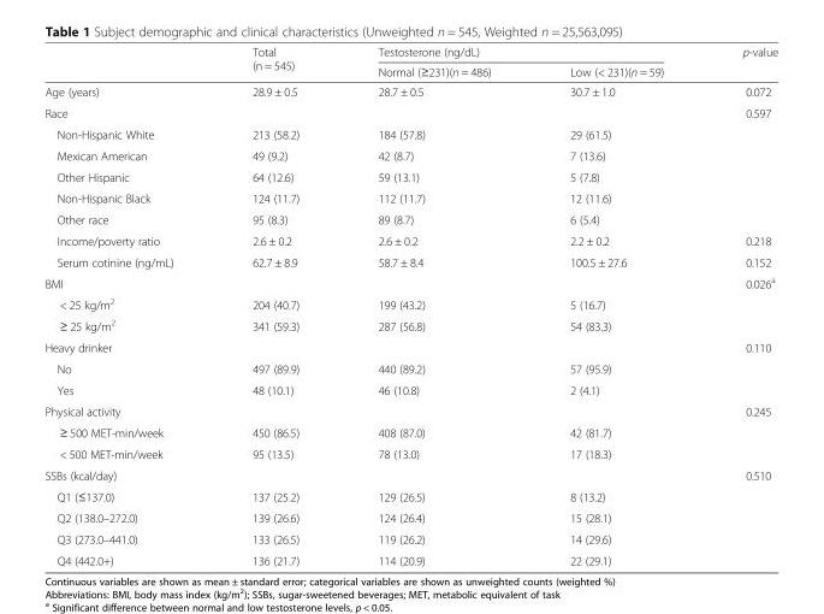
<table><thead><tr><td rowspan="2"></td><td rowspan="2">Total (n = 545)</td><td colspan="2">Testosterone (ng/dL)</td><td rowspan="2">p-value</td></tr><tr><td>Normal (≥231)(n = 486)</td><td>Low (&lt; 231)(n = 59)</td></tr></thead><tbody><tr><td>Age (years)</td><td>28.9 ± 0.5</td><td>28.7 ± 0.5</td><td>30.7 ± 1.0</td><td>0.072</td></tr><tr><td colspan="4">Race</td><td>0.597</td></tr><tr><td>Non-Hispanic White</td><td>213 (58.2)</td><td>184 (57.8)</td><td>29 (61.5)</td><td rowspan="5"></td></tr><tr><td>Mexican American</td><td>49 (9.2)</td><td>42 (8.7)</td><td>7 (13.6)</td></tr><tr><td>Other Hispanic</td><td>64 (12.6)</td><td>59 (13.1)</td><td>5 (7.8)</td></tr><tr><td>Non-Hispanic Black</td><td>124 (11.7)</td><td>112 (11.7)</td><td>12 (11.6)</td></tr><tr><td>Other race</td><td>95 (8.3)</td><td>89 (8.7)</td><td>6 (5.4)</td></tr><tr><td>Income/poverty ratio</td><td>2.6 ± 0.2</td><td>2.6 ± 0.2</td><td>2.2 ± 0.2</td><td>0.218</td></tr><tr><td>Serum cotinine (ng/mL)</td><td>62.7 ± 8.9</td><td>58.7 ± 8.4</td><td>100.5 ± 27.6</td><td>0.152</td></tr><tr><td colspan="4">BMI</td><td>0.026<sup>a</sup></td></tr><tr><td>&lt; 25 kg/m<sup>2</sup></td><td>204 (40.7)</td><td>199 (43.2)</td><td>5 (16.7)</td><td rowspan="2"></td></tr><tr><td>≥ 25 kg/m<sup>2</sup></td><td>341 (59.3)</td><td>287 (56.8)</td><td>54 (83.3)</td></tr><tr><td colspan="4">Heavy drinker</td><td>0.110</td></tr><tr><td>No</td><td>497 (89.9)</td><td>440 (89.2)</td><td>57 (95.9)</td><td rowspan="2"></td></tr><tr><td>Yes</td><td>48 (10.1)</td><td>46 (10.8)</td><td>2 (4.1)</td></tr><tr><td colspan="4">Physical activity</td><td>0.245</td></tr><tr><td>≥ 500 MET-min/week</td><td>450 (86.5)</td><td>408 (87.0)</td><td>42 (81.7)</td><td rowspan="2"></td></tr><tr><td>&lt; 500 MET-min/week</td><td>95 (13.5)</td><td>78 (13.0)</td><td>17 (18.3)</td></tr><tr><td colspan="4">SSBs (kcal/day)</td><td>0.510</td></tr><tr><td>Q1 (≤137.0)</td><td>137 (25.2)</td><td>129 (26.5)</td><td>8 (13.2)</td><td rowspan="3"></td></tr><tr><td>Q2 (138.0–272.0)</td><td>139 (26.6)</td><td>124 (26.4)</td><td>15 (28.1)</td></tr><tr><td>Q3 (273.0–441.0)</td><td>133 (26.5)</td><td>119 (26.2)</td><td>14 (29.6)</td></tr><tr><td>Q4 (442.0+)</td><td>136 (21.7)</td><td>114 (20.9)</td><td>22 (29.1)</td><td></td></tr></tbody></table>